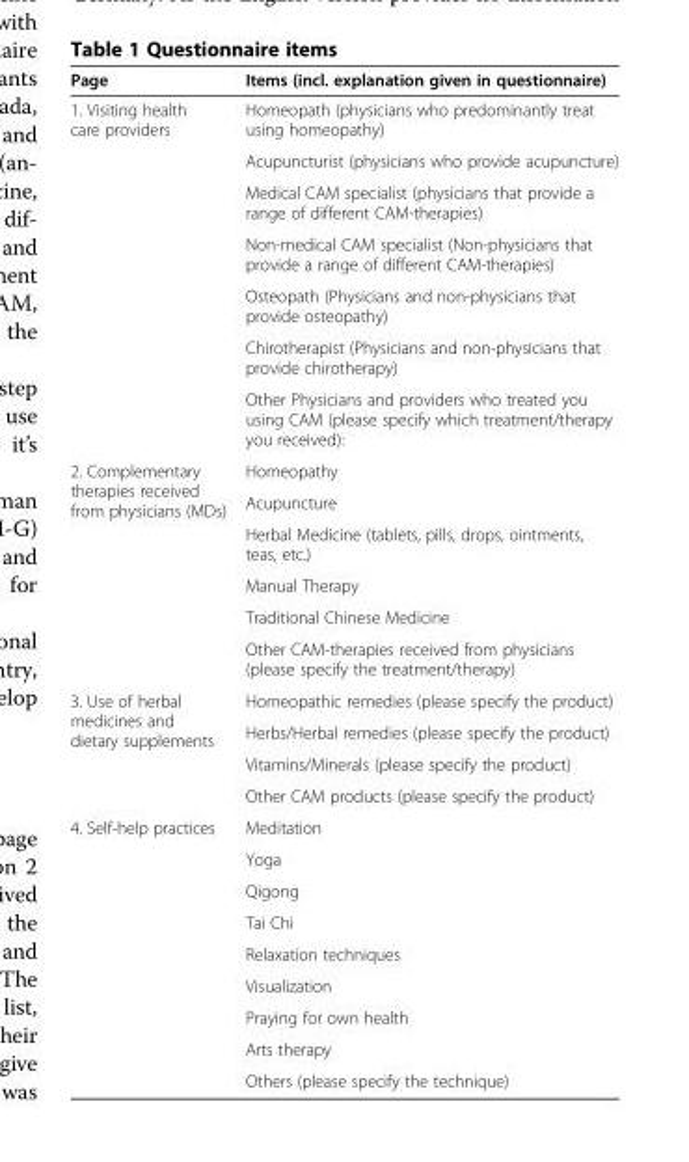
<table><thead><tr><td>Page</td><td>Items (incl. explanation given in questionnaire)</td></tr></thead><tbody><tr><td rowspan="7">1. Visiting health care providers</td><td>Homeopath (physicians who predominantly treat using homeopathy)</td></tr><tr><td>Acupuncturist (physicians who provide acupuncture)</td></tr><tr><td>Medical CAM specialist (physicians that provide a range of different CAM-therapies)</td></tr><tr><td>Non-medical CAM specialist (Non-physicians that provide a range of different CAM-therapies)</td></tr><tr><td>Osteopath (Physicians and non-physicians that provide osteopathy)</td></tr><tr><td>Chirotherapist (Physicians and non-physicians that provide chirotherapy)</td></tr><tr><td>Other Physicians and providers who treated you using CAM (please specify which treatment/therapy you received):</td></tr><tr><td rowspan="6">2. Complementary therapies received from physicians (MDs)</td><td>Homeopathy</td></tr><tr><td>Acupuncture</td></tr><tr><td>Herbal Medicine (tablets, pills, drops, ointments, teas, etc.)</td></tr><tr><td>Manual Therapy</td></tr><tr><td>Traditional Chinese Medicine</td></tr><tr><td>Other CAM-therapies received from physicians (please specify the treatment/therapy)</td></tr><tr><td rowspan="4">3. Use of herbal medicines and dietary supplements</td><td>Homeopathic remedies (please specify the product)</td></tr><tr><td>Herbs/Herbal remedies (please specify the product)</td></tr><tr><td>Vitamins/Minerals (please specify the product)</td></tr><tr><td>Other CAM products (please specify the product)</td></tr><tr><td rowspan="9">4. Self-help practices</td><td>Meditation</td></tr><tr><td>Yoga</td></tr><tr><td>Qigong</td></tr><tr><td>Tai Chi</td></tr><tr><td>Relaxation techniques</td></tr><tr><td>Visualization</td></tr><tr><td>Praying for own health</td></tr><tr><td>Arts therapy</td></tr><tr><td>Others (please specify the technique)</td></tr></tbody></table>